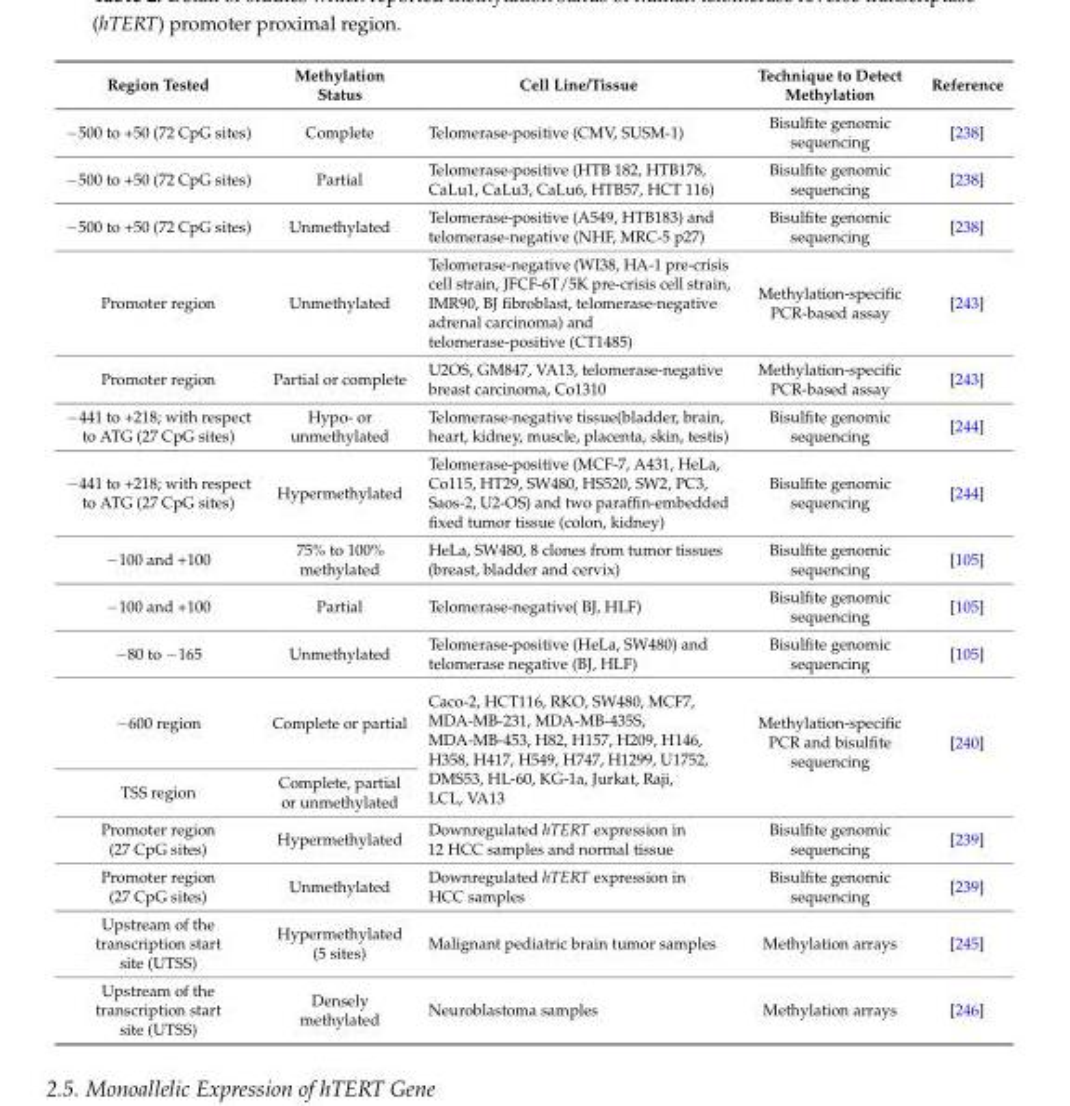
<table><thead><tr><td>Region Tested</td><td>Methylation Status</td><td>Cell Line/Tissue</td><td>Technique to Detect Methylation</td><td>Reference</td></tr></thead><tbody><tr><td>−500 to +50 (72 CpG sites)</td><td>Complete</td><td>Telomerase-positive (CMV, SUSM-1)</td><td>Bisulfite genomic sequencing</td><td>[238]</td></tr><tr><td>−500 to +50 (72 CpG sites)</td><td>Partial</td><td>Telomerase-positive (HTB 182, HTB178, CaLu1, CaLu3, CaLu6, HTB57, HCT 116)</td><td>Bisulfite genomic sequencing</td><td>[238]</td></tr><tr><td>−500 to +50 (72 CpG sites)</td><td>Unmethylated</td><td>Telomerase-positive (A549, HTB183) and telomerase-negative (NHF, MRC-5 p27)</td><td>Bisulfite genomic sequencing</td><td>[238]</td></tr><tr><td>Promoter region</td><td>Unmethylated</td><td>Telomerase-negative (WI38, HA-1 pre-crisis cell strain, JFCF-6T/5K pre-crisis cell strain, IMR90, BJ fibroblast, telomerase-negative adrenal carcinoma) and telomerase-positive (CT1485)</td><td>Methylation-specific PCR-based assay</td><td>[243]</td></tr><tr><td>Promoter region</td><td>Partial or complete</td><td>U2OS, GM847, VA13, telomerase-negative breast carcinoma, Co1310</td><td>Methylation-specific PCR-based assay</td><td>[243]</td></tr><tr><td>−441 to +218; with respect to ATG (27 CpG sites)</td><td>Hypo- or unmethylated</td><td>Telomerase-negative tissue(bladder, brain, heart, kidney, muscle, placenta, skin, testis)</td><td>Bisulfite genomic sequencing</td><td>[244]</td></tr><tr><td>−441 to +218; with respect to ATG (27 CpG sites)</td><td>Hypermethylated</td><td>Telomerase-positive (MCF-7, A431, HeLa, Co115, HT29, SW480, HS520, SW2, PC3, Saos-2, U2-OS) and two paraffin-embedded fixed tumor tissue (colon, kidney)</td><td>Bisulfite genomic sequencing</td><td>[244]</td></tr><tr><td>−100 and +100</td><td>75% to 100% methylated</td><td>HeLa, SW480, 8 clones from tumor tissues (breast, bladder and cervix)</td><td>Bisulfite genomic sequencing</td><td>[105]</td></tr><tr><td>−100 and +100</td><td>Partial</td><td>Telomerase-negative( BJ, HLF)</td><td>Bisulfite genomic sequencing</td><td>[105]</td></tr><tr><td>−80 to −165</td><td>Unmethylated</td><td>Telomerase-positive (HeLa, SW480) and telomerase negative (BJ, HLF)</td><td>Bisulfite genomic sequencing</td><td>[105]</td></tr><tr><td>−600 region</td><td>Complete or partial</td><td rowspan="2">Caco-2, HCT116, RKO, SW480, MCF7, MDA-MB-231, MDA-MB-435S, MDA-MB-453, H82, H157, H209, H146, H358, H417, H549, H747, H1299, U1752, DMS53, HL-60, KG-1a, Jurkat, Raji, LCL, VA13</td><td rowspan="2">Methylation-specific PCR and bisulfite sequencing</td><td rowspan="2">[240]</td></tr><tr><td>TSS region</td><td>Complete, partial or unmethylated</td></tr><tr><td>Promoter region (27 CpG sites)</td><td>Hypermethylated</td><td>Downregulated hTERT expression in 12 HCC samples and normal tissue</td><td>Bisulfite genomic sequencing</td><td>[239]</td></tr><tr><td>Promoter region (27 CpG sites)</td><td>Unmethylated</td><td>Downregulated hTERT expression in HCC samples</td><td>Bisulfite genomic sequencing</td><td>[239]</td></tr><tr><td>Upstream of the transcription start site (UTSS)</td><td>Hypermethylated (5 sites)</td><td>Malignant pediatric brain tumor samples</td><td>Methylation arrays</td><td>[245]</td></tr><tr><td>Upstream of the transcription start site (UTSS)</td><td>Densely methylated</td><td>Neuroblastoma samples</td><td>Methylation arrays</td><td>[246]</td></tr></tbody></table>